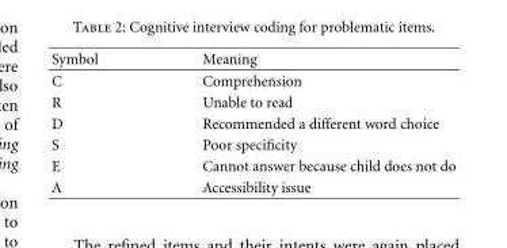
<table><thead><tr><td>Symbol</td><td>Meaning</td></tr></thead><tbody><tr><td>C</td><td>Comprehension</td></tr><tr><td>R</td><td>Unable to read</td></tr><tr><td>D</td><td>Recommended a different word choice</td></tr><tr><td>S</td><td>Poor specificity</td></tr><tr><td>E</td><td>Cannot answer because child does not do</td></tr><tr><td>A</td><td>Accessibility issue</td></tr></tbody></table>